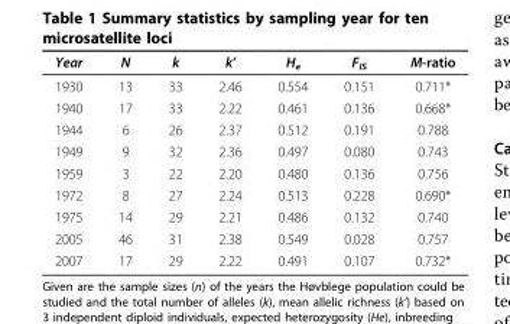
<table><thead><tr><td>Year</td><td>N</td><td>k</td><td>k’</td><td>H<sub>e</sub></td><td>F<sub>IS</sub></td><td>M-ratio</td></tr></thead><tbody><tr><td>1930</td><td>13</td><td>33</td><td>2.46</td><td>0.554</td><td>0.151</td><td>0.711*</td></tr><tr><td>1940</td><td>17</td><td>33</td><td>2.22</td><td>0.461</td><td>0.136</td><td>0.668*</td></tr><tr><td>1944</td><td>6</td><td>26</td><td>2.37</td><td>0.512</td><td>0.191</td><td>0.788</td></tr><tr><td>1949</td><td>9</td><td>32</td><td>2.36</td><td>0.497</td><td>0.080</td><td>0.743</td></tr><tr><td>1959</td><td>3</td><td>22</td><td>2.20</td><td>0.480</td><td>0.136</td><td>0.756</td></tr><tr><td>1972</td><td>8</td><td>27</td><td>2.24</td><td>0.513</td><td>0.228</td><td>0.690*</td></tr><tr><td>1975</td><td>14</td><td>29</td><td>2.21</td><td>0.486</td><td>0.132</td><td>0.740</td></tr><tr><td>2005</td><td>46</td><td>31</td><td>2.38</td><td>0.549</td><td>0.028</td><td>0.757</td></tr><tr><td>2007</td><td>17</td><td>29</td><td>2.22</td><td>0.491</td><td>0.107</td><td>0.732*</td></tr></tbody></table>